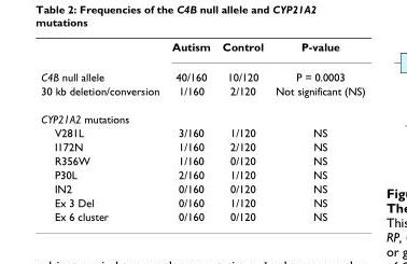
<table><thead><tr><td></td><td>Autism</td><td>Control</td><td>P-value</td></tr></thead><tbody><tr><td>C4B null allele</td><td>40/160</td><td>10/120</td><td>P = 0.0003</td></tr><tr><td>30 kb deletion/conversion</td><td>1/160</td><td>2/120</td><td>Not significant (NS)</td></tr><tr><td colspan="4">CYP21A2 mutations</td></tr><tr><td>V281L</td><td>3/160</td><td>1/120</td><td>NS</td></tr><tr><td>I172N</td><td>1/160</td><td>2/120</td><td>NS</td></tr><tr><td>R356W</td><td>1/160</td><td>0/120</td><td>NS</td></tr><tr><td>P30L</td><td>2/160</td><td>1/120</td><td>NS</td></tr><tr><td>IN2</td><td>0/160</td><td>0/120</td><td>NS</td></tr><tr><td>Ex 3 Del</td><td>0/160</td><td>1/120</td><td>NS</td></tr><tr><td>Ex 6 cluster</td><td>0/160</td><td>0/120</td><td>NS</td></tr></tbody></table>